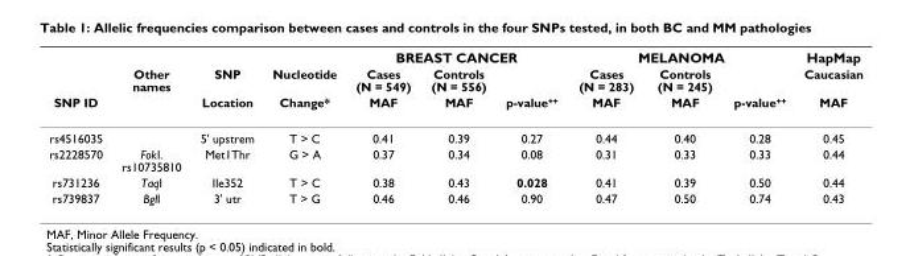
<table><thead><tr><td rowspan="3">SNP ID</td><td rowspan="3">Other names</td><td rowspan="3">SNP Location</td><td rowspan="3">Nucleotide Change*</td><td colspan="3">BREAST CANCER</td><td colspan="3">MELANOMA</td><td rowspan="3">HapMap Caucasian MAF</td></tr><tr><td rowspan="2">Cases (N = 549) MAF</td><td rowspan="2">Controls (N = 556) MAF</td><td rowspan="2">p-value<sup>++</sup></td><td rowspan="2">Cases (N = 283) MAF</td><td rowspan="2">Controls (N = 245) MAF</td><td rowspan="2">p-value<sup>++</sup></td></tr><tr></tr></thead><tbody><tr><td>rs4516035</td><td></td><td>5&#x27; upstrem</td><td>T &gt; C</td><td>0.41</td><td>0.39</td><td>0.27</td><td>0.44</td><td>0.40</td><td>0.28</td><td>0.45</td></tr><tr><td>rs2228570</td><td>FokI. rs10735810</td><td>Met1Thr</td><td>G &gt; A</td><td>0.37</td><td>0.34</td><td>0.08</td><td>0.31</td><td>0.33</td><td>0.33</td><td>0.44</td></tr><tr><td>rs731236</td><td>TaqI</td><td>Ile352</td><td>T &gt; C</td><td>0.38</td><td>0.43</td><td>0.028</td><td>0.41</td><td>0.39</td><td>0.50</td><td>0.44</td></tr><tr><td>rs739837</td><td>BglI</td><td>3&#x27; utr</td><td>T &gt; G</td><td>0.46</td><td>0.46</td><td>0.90</td><td>0.47</td><td>0.50</td><td>0.74</td><td>0.43</td></tr></tbody></table>